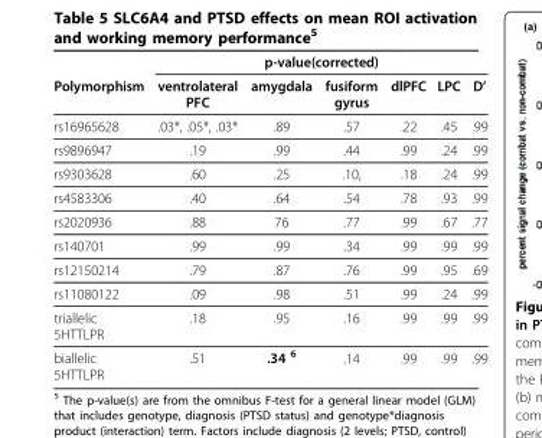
<table><thead><tr><td rowspan="2">Polymorphism</td><td colspan="6">p-value(corrected)</td></tr><tr><td>ventrolateral PFC</td><td>amygdala</td><td>fusiform gyrus</td><td>dlPFC</td><td>LPC</td><td>D’</td></tr></thead><tbody><tr><td>rs16965628</td><td>.03*, .05*, .03*</td><td>.89</td><td>.57</td><td>.22</td><td>.45</td><td>.99</td></tr><tr><td>rs9896947</td><td>.19</td><td>.99</td><td>.44</td><td>.99</td><td>.24</td><td>.99</td></tr><tr><td>rs9303628</td><td>.60</td><td>.25</td><td>.10,</td><td>.18</td><td>.24</td><td>.99</td></tr><tr><td>rs4583306</td><td>.40</td><td>.64</td><td>.54</td><td>.78</td><td>.93</td><td>.99</td></tr><tr><td>rs2020936</td><td>.88</td><td>76</td><td>.77</td><td>.99</td><td>.67</td><td>.77</td></tr><tr><td>rs140701</td><td>.99</td><td>.99</td><td>.34</td><td>.99</td><td>.99</td><td>.99</td></tr><tr><td>rs12150214</td><td>.79</td><td>.87</td><td>.76</td><td>.99</td><td>.95</td><td>.69</td></tr><tr><td>rs11080122</td><td>.09</td><td>.98</td><td>.51</td><td>.99</td><td>.24</td><td>.99</td></tr><tr><td>triallelic 5HTTLPR</td><td>.18</td><td>.95</td><td>.16</td><td>.99</td><td>.99</td><td>.99</td></tr><tr><td>biallelic 5HTTLPR</td><td>.51</td><td>.34 <sup>6</sup></td><td>.14</td><td>.99</td><td>.99</td><td>.99</td></tr></tbody></table>